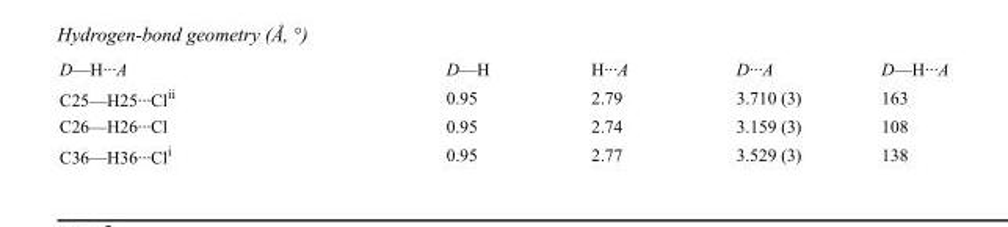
<table><tbody><tr><td>D—H···A</td><td>D—H</td><td>H···A</td><td>D···A</td><td>D—H···A</td></tr><tr><td>C25—H25···Cl<sup>ii</sup></td><td>0.95</td><td>2.79</td><td>3.710 (3)</td><td>163</td></tr><tr><td>C26—H26···Cl</td><td>0.95</td><td>2.74</td><td>3.159 (3)</td><td>108</td></tr><tr><td>C36—H36···Cl<sup>i</sup></td><td>0.95</td><td>2.77</td><td>3.529 (3)</td><td>138</td></tr></tbody></table>